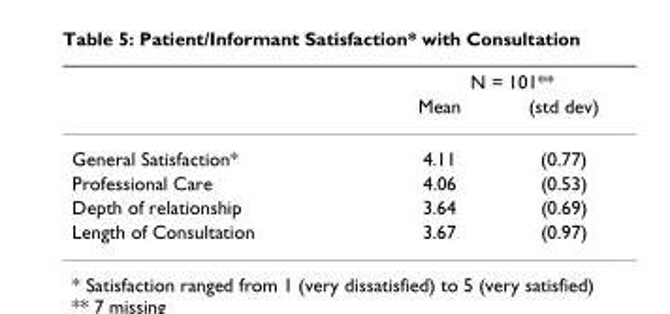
<table><thead><tr><td rowspan="2"></td><td colspan="2">N = 101**</td></tr><tr><td>Mean</td><td>(std dev)</td></tr></thead><tbody><tr><td>General Satisfaction*</td><td>4.11</td><td>(0.77)</td></tr><tr><td>Professional Care</td><td>4.06</td><td>(0.53)</td></tr><tr><td>Depth of relationship</td><td>3.64</td><td>(0.69)</td></tr><tr><td>Length of Consultation</td><td>3.67</td><td>(0.97)</td></tr></tbody></table>